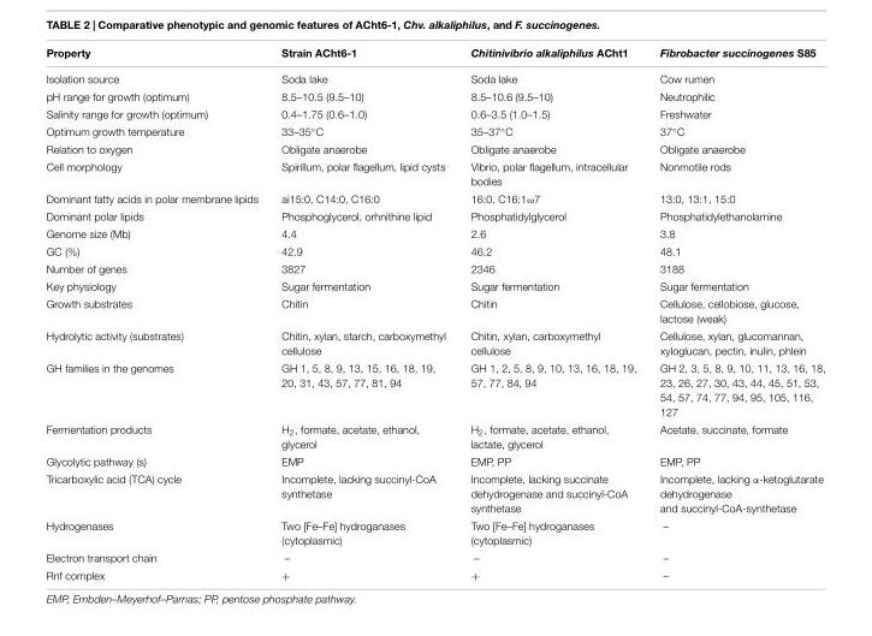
<table><thead><tr><td>Property</td><td>Strain ACht6-1</td><td>Chitinivibrio alkaliphilus ACht1</td><td>Fibrobacter succinogenes S85</td></tr></thead><tbody><tr><td>Isolation source</td><td>Soda lake</td><td>Soda lake</td><td>Cow rumen</td></tr><tr><td>pH range for growth (optimum)</td><td>8.5–10.5 (9.5–10)</td><td>8.5–10.6 (9.5–10)</td><td>Neutrophilic</td></tr><tr><td>Salinity range for growth (optimum)</td><td>0.4–1.75 (0.6–1.0)</td><td>0.6–3.5 (1.0–1.5)</td><td>Freshwater</td></tr><tr><td>Optimum growth temperature</td><td>33–35◦C</td><td>35–37◦C</td><td>37◦C</td></tr><tr><td>Relation to oxygen</td><td>Obligate anaerobe</td><td>Obligate anaerobe</td><td>Obligate anaerobe</td></tr><tr><td>Cell morphology</td><td>Spirillum, polar flagellum, lipid cysts</td><td>Vibrio, polar flagellum, intracellular bodies</td><td>Nonmotile rods</td></tr><tr><td>Dominant fatty acids in polar membrane lipids</td><td>ai15:0, C14:0, C16:0</td><td>16:0, C16:1ω7</td><td>13:0, 13:1, 15:0</td></tr><tr><td>Dominant polar lipids</td><td>Phosphoglycerol, orhnithine lipid</td><td>Phosphatidylglycerol</td><td>Phosphatidylethanolamine</td></tr><tr><td>Genome size (Mb)</td><td>4.4</td><td>2.6</td><td>3.8</td></tr><tr><td>GC (%)</td><td>42.9</td><td>46.2</td><td>48.1</td></tr><tr><td>Number of genes</td><td>3827</td><td>2346</td><td>3188</td></tr><tr><td>Key physiology</td><td>Sugar fermentation</td><td>Sugar fermentation</td><td>Sugar fermentation</td></tr><tr><td>Growth substrates</td><td>Chitin</td><td>Chitin</td><td>Cellulose, cellobiose, glucose, lactose (weak)</td></tr><tr><td>Hydrolytic activity (substrates)</td><td>Chitin, xylan, starch, carboxymethyl cellulose</td><td>Chitin, xylan, carboxymethyl cellulose</td><td>Cellulose, xylan, glucomannan, xyloglucan, pectin, inulin, phlein</td></tr><tr><td>GH families in the genomes</td><td>GH 1, 5, 8, 9, 13, 15, 16, 18, 19, 20, 31, 43, 57, 77, 81, 94</td><td>GH 1, 2, 5, 8, 9, 10, 13, 16, 18, 19, 57, 77, 84, 94</td><td>GH 2, 3, 5, 8, 9, 10, 11, 13, 16, 18, 23, 26, 27, 30, 43, 44, 45, 51, 53, 54, 57, 74, 77, 94, 95, 105, 116, 127</td></tr><tr><td>Fermentation products</td><td>H<sub>2</sub>, formate, acetate, ethanol, glycerol</td><td>H<sub>2</sub>, formate, acetate, ethanol, lactate, glycerol</td><td>Acetate, succinate, formate</td></tr><tr><td>Glycolytic pathway (s)</td><td>EMP</td><td>EMP, PP</td><td>EMP, PP</td></tr><tr><td>Tricarboxylic acid (TCA) cycle</td><td>Incomplete, lacking succinyl-CoA synthetase</td><td>Incomplete, lacking succinate dehydrogenase and succinyl-CoA synthetase</td><td>Incomplete, lacking α-ketoglutarate dehydrogenase and succinyl-CoA-synthetase</td></tr><tr><td>Hydrogenases</td><td>Two [Fe–Fe] hydroganases (cytoplasmic)</td><td>Two [Fe–Fe] hydroganases (cytoplasmic)</td><td>–</td></tr><tr><td>Electron transport chain</td><td>–</td><td>–</td><td>–</td></tr><tr><td>Rnf complex</td><td>+</td><td>+</td><td>–</td></tr></tbody></table>